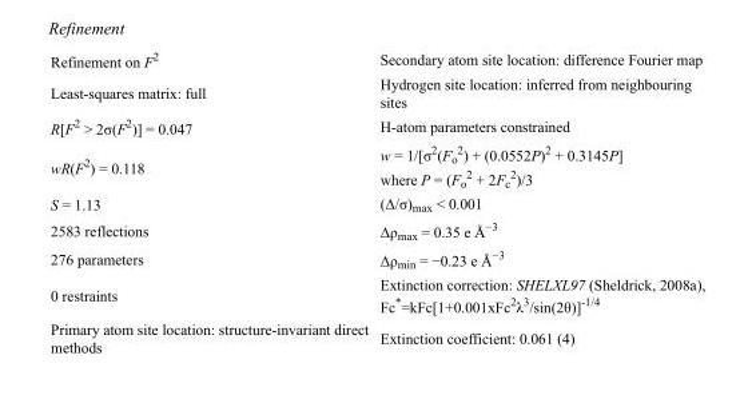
<table><tbody><tr><td>Refinement on F<sup>2</sup></td><td>Secondary atom site location: difference Fourier map</td></tr><tr><td>Least-squares matrix: full</td><td>Hydrogen site location: inferred from neighbouring sites</td></tr><tr><td>R[F<sup>2</sup> &gt; 2σ(F<sup>2</sup>)] = 0.047</td><td>H-atom parameters constrained</td></tr><tr><td>wR(F<sup>2</sup>) = 0.118</td><td>w = 1/[σ<sup>2</sup>(F<sub>o</sub> <sup>2</sup>) + (0.0552P)<sup>2</sup> + 0.3145P] where P = (F<sub>o</sub> <sup>2</sup> + 2F<sub>c</sub> <sup>2</sup>)/3</td></tr><tr><td>S = 1.13</td><td>(Δ/σ)<sub>max</sub> &lt; 0.001</td></tr><tr><td>2583 reflections</td><td>Δρ<sub>max</sub> = 0.35 e Å<sup>−3</sup></td></tr><tr><td>276 parameters</td><td>Δρ<sub>min</sub> = −0.23 e Å<sup>−3</sup></td></tr><tr><td>0 restraints</td><td>Extinction correction: SHELXL97 (Sheldrick, 2008a), Fc*=kFc[1+0.001xFc<sup>2</sup>λ<sup>3</sup>/sin(2θ)]<sup>-1/4</sup></td></tr><tr><td>Primary atom site location: structure-invariant direct methods</td><td>Extinction coefficient: 0.061 (4)</td></tr></tbody></table>